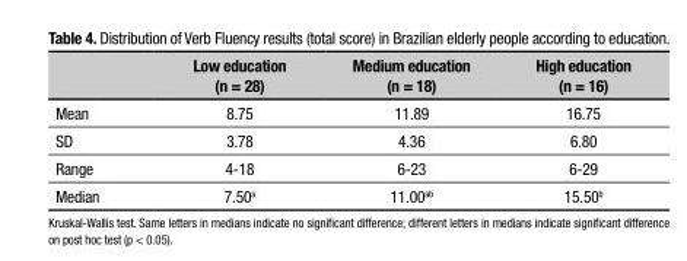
<table><thead><tr><td></td><td>Low education (n = 28)</td><td>Medium education (n = 18)</td><td>High education (n = 16)</td></tr></thead><tbody><tr><td>Mean</td><td>8.75</td><td>11.89</td><td>16.75</td></tr><tr><td>SD</td><td>3.78</td><td>4.36</td><td>6.80</td></tr><tr><td>Range</td><td>4-18</td><td>6-23</td><td>6-29</td></tr><tr><td>Median</td><td>7.50<sup>a</sup></td><td>11.00<sup>ab</sup></td><td>15.50<sup>b</sup></td></tr></tbody></table>